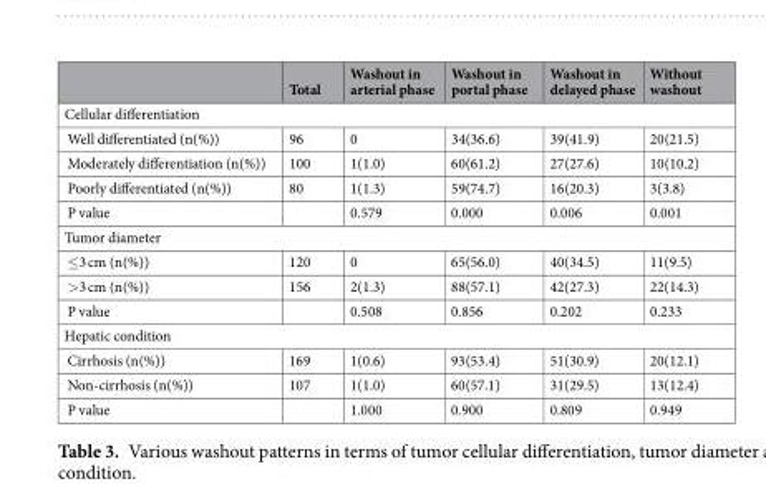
<table><thead><tr><td></td><td>Total</td><td>Washout in arterial phase</td><td>Washout in portal phase</td><td>Washout in delayed phase</td><td>Without washout</td></tr></thead><tbody><tr><td colspan="6">Cellular differentiation</td></tr><tr><td>Well differentiated (n(%))</td><td>96</td><td>0</td><td>34(36.6)</td><td>39(41.9)</td><td>20(21.5)</td></tr><tr><td>Moderately differentiation (n(%))</td><td>100</td><td>1(1.0)</td><td>60(61.2)</td><td>27(27.6)</td><td>10(10.2)</td></tr><tr><td>Poorly differentiated (n(%))</td><td>80</td><td>1(1.3)</td><td>59(74.7)</td><td>16(20.3)</td><td>3(3.8)</td></tr><tr><td>P value</td><td></td><td>0.579</td><td>0.000</td><td>0.006</td><td>0.001</td></tr><tr><td colspan="6">Tumor diameter</td></tr><tr><td>≤3 cm (n(%))</td><td>120</td><td>0</td><td>65(56.0)</td><td>40(34.5)</td><td>11(9.5)</td></tr><tr><td>&gt;3 cm (n(%))</td><td>156</td><td>2(1.3)</td><td>88(57.1)</td><td>42(27.3)</td><td>22(14.3)</td></tr><tr><td>P value</td><td></td><td>0.508</td><td>0.856</td><td>0.202</td><td>0.233</td></tr><tr><td colspan="6">Hepatic condition</td></tr><tr><td>Cirrhosis (n(%))</td><td>169</td><td>1(0.6)</td><td>93(53.4)</td><td>51(30.9)</td><td>20(12.1)</td></tr><tr><td>Non-cirrhosis (n(%))</td><td>107</td><td>1(1.0)</td><td>60(57.1)</td><td>31(29.5)</td><td>13(12.4)</td></tr><tr><td>P value</td><td></td><td>1.000</td><td>0.900</td><td>0.809</td><td>0.949</td></tr></tbody></table>